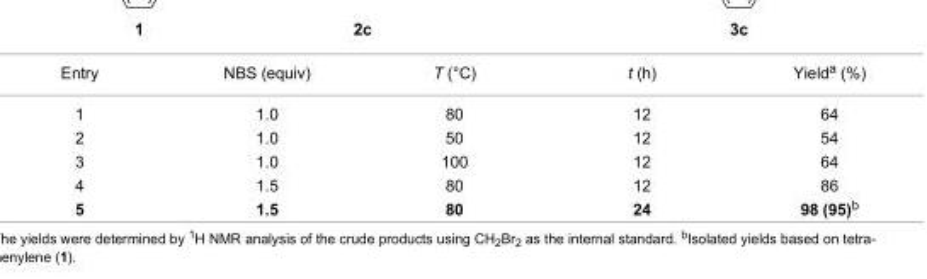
<table><tbody><tr><td>Entry</td><td>NBS (equiv)</td><td>T (°C)</td><td>t (h)</td><td>Yield<sup>a</sup> (%)</td></tr><tr><td>1</td><td>1.0</td><td>80</td><td>12</td><td>64</td></tr><tr><td>2</td><td>1.0</td><td>50</td><td>12</td><td>54</td></tr><tr><td>3</td><td>1.0</td><td>100</td><td>12</td><td>64</td></tr><tr><td>4</td><td>1.5</td><td>80</td><td>12</td><td>86</td></tr><tr><td>5</td><td>1.5</td><td>80</td><td>24</td><td>98 (95)<sup>b</sup></td></tr></tbody></table>